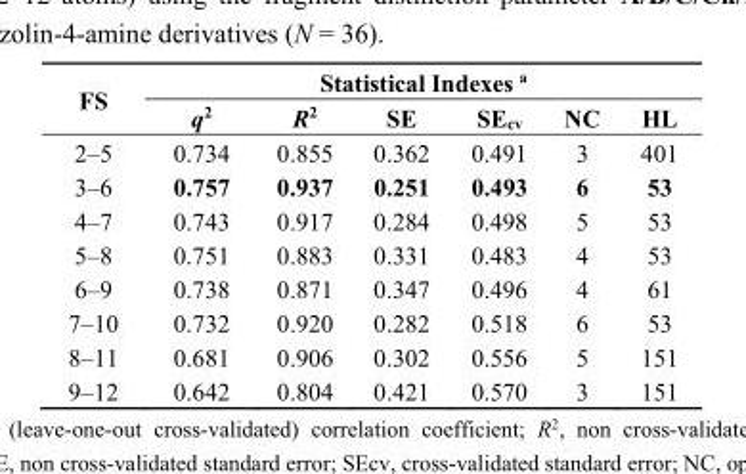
<table><thead><tr><td rowspan="2">FS</td><td colspan="6">Statistical Indexes <sup>a</sup></td></tr><tr><td>q<sup>2</sup></td><td>R<sup>2</sup></td><td>SE</td><td>SE<sub>cv</sub></td><td>NC</td><td>HL</td></tr></thead><tbody><tr><td>2–5</td><td>0.734</td><td>0.855</td><td>0.362</td><td>0.491</td><td>3</td><td>401</td></tr><tr><td>3–6</td><td>0.757</td><td>0.937</td><td>0.251</td><td>0.493</td><td>6</td><td>53</td></tr><tr><td>4–7</td><td>0.743</td><td>0.917</td><td>0.284</td><td>0.498</td><td>5</td><td>53</td></tr><tr><td>5–8</td><td>0.751</td><td>0.883</td><td>0.331</td><td>0.483</td><td>4</td><td>53</td></tr><tr><td>6–9</td><td>0.738</td><td>0.871</td><td>0.347</td><td>0.496</td><td>4</td><td>61</td></tr><tr><td>7–10</td><td>0.732</td><td>0.920</td><td>0.282</td><td>0.518</td><td>6</td><td>53</td></tr><tr><td>8–11</td><td>0.681</td><td>0.906</td><td>0.302</td><td>0.556</td><td>5</td><td>151</td></tr><tr><td>9–12</td><td>0.642</td><td>0.804</td><td>0.421</td><td>0.570</td><td>3</td><td>151</td></tr></tbody></table>